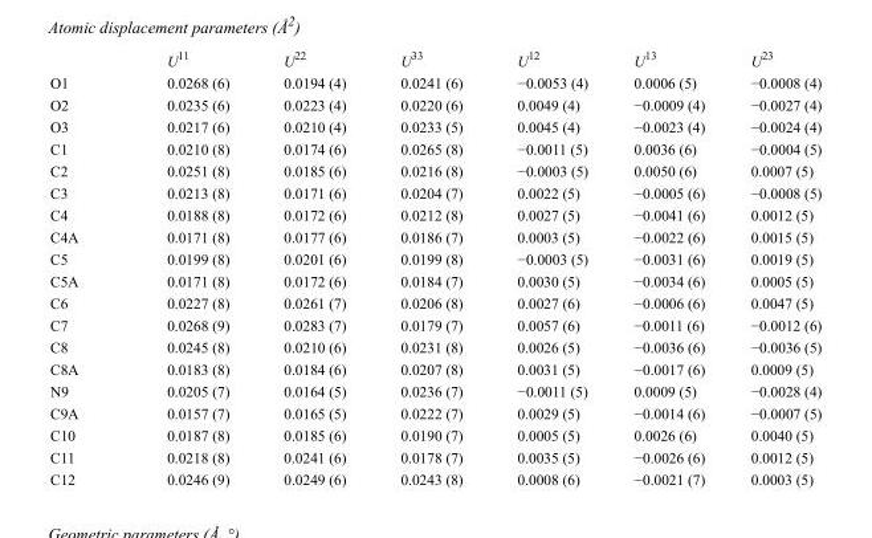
<table><thead><tr><td></td><td>U<sup>11</sup></td><td>U<sup>22</sup></td><td>U<sup>33</sup></td><td>U<sup>12</sup></td><td>U<sup>13</sup></td><td>U<sup>23</sup></td></tr></thead><tbody><tr><td>O1</td><td>0.0268 (6)</td><td>0.0194 (4)</td><td>0.0241 (6)</td><td>−0.0053 (4)</td><td>0.0006 (5)</td><td>−0.0008 (4)</td></tr><tr><td>O2</td><td>0.0235 (6)</td><td>0.0223 (4)</td><td>0.0220 (6)</td><td>0.0049 (4)</td><td>−0.0009 (4)</td><td>−0.0027 (4)</td></tr><tr><td>O3</td><td>0.0217 (6)</td><td>0.0210 (4)</td><td>0.0233 (5)</td><td>0.0045 (4)</td><td>−0.0023 (4)</td><td>−0.0024 (4)</td></tr><tr><td>C1</td><td>0.0210 (8)</td><td>0.0174 (6)</td><td>0.0265 (8)</td><td>−0.0011 (5)</td><td>0.0036 (6)</td><td>−0.0004 (5)</td></tr><tr><td>C2</td><td>0.0251 (8)</td><td>0.0185 (6)</td><td>0.0216 (8)</td><td>−0.0003 (5)</td><td>0.0050 (6)</td><td>0.0007 (5)</td></tr><tr><td>C3</td><td>0.0213 (8)</td><td>0.0171 (6)</td><td>0.0204 (7)</td><td>0.0022 (5)</td><td>−0.0005 (6)</td><td>−0.0008 (5)</td></tr><tr><td>C4</td><td>0.0188 (8)</td><td>0.0172 (6)</td><td>0.0212 (8)</td><td>0.0027 (5)</td><td>−0.0041 (6)</td><td>0.0012 (5)</td></tr><tr><td>C4A</td><td>0.0171 (8)</td><td>0.0177 (6)</td><td>0.0186 (7)</td><td>0.0003 (5)</td><td>−0.0022 (6)</td><td>0.0015 (5)</td></tr><tr><td>C5</td><td>0.0199 (8)</td><td>0.0201 (6)</td><td>0.0199 (8)</td><td>−0.0003 (5)</td><td>−0.0031 (6)</td><td>0.0019 (5)</td></tr><tr><td>C5A</td><td>0.0171 (8)</td><td>0.0172 (6)</td><td>0.0184 (7)</td><td>0.0030 (5)</td><td>−0.0034 (6)</td><td>0.0005 (5)</td></tr><tr><td>C6</td><td>0.0227 (8)</td><td>0.0261 (7)</td><td>0.0206 (8)</td><td>0.0027 (6)</td><td>−0.0006 (6)</td><td>0.0047 (5)</td></tr><tr><td>C7</td><td>0.0268 (9)</td><td>0.0283 (7)</td><td>0.0179 (7)</td><td>0.0057 (6)</td><td>−0.0011 (6)</td><td>−0.0012 (6)</td></tr><tr><td>C8</td><td>0.0245 (8)</td><td>0.0210 (6)</td><td>0.0231 (8)</td><td>0.0026 (5)</td><td>−0.0036 (6)</td><td>−0.0036 (5)</td></tr><tr><td>C8A</td><td>0.0183 (8)</td><td>0.0184 (6)</td><td>0.0207 (8)</td><td>0.0031 (5)</td><td>−0.0017 (6)</td><td>0.0009 (5)</td></tr><tr><td>N9</td><td>0.0205 (7)</td><td>0.0164 (5)</td><td>0.0236 (7)</td><td>−0.0011 (5)</td><td>0.0009 (5)</td><td>−0.0028 (4)</td></tr><tr><td>C9A</td><td>0.0157 (7)</td><td>0.0165 (5)</td><td>0.0222 (7)</td><td>0.0029 (5)</td><td>−0.0014 (6)</td><td>−0.0007 (5)</td></tr><tr><td>C10</td><td>0.0187 (8)</td><td>0.0185 (6)</td><td>0.0190 (7)</td><td>0.0005 (5)</td><td>0.0026 (6)</td><td>0.0040 (5)</td></tr><tr><td>C11</td><td>0.0218 (8)</td><td>0.0241 (6)</td><td>0.0178 (7)</td><td>0.0035 (5)</td><td>−0.0026 (6)</td><td>0.0012 (5)</td></tr><tr><td>C12</td><td>0.0246 (9)</td><td>0.0249 (6)</td><td>0.0243 (8)</td><td>0.0008 (6)</td><td>−0.0021 (7)</td><td>0.0003 (5)</td></tr></tbody></table>